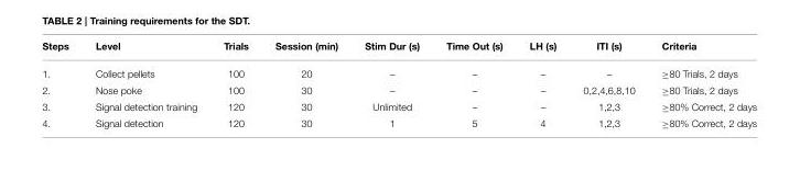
<table><thead><tr><td>Steps</td><td>Level</td><td>Trials</td><td>Session (min)</td><td>Stim Dur (s)</td><td>Time Out (s)</td><td>LH (s)</td><td>ITI (s)</td><td>Criteria</td></tr></thead><tbody><tr><td>1.</td><td>Collect pellets</td><td>100</td><td>20</td><td>–</td><td>–</td><td>–</td><td>–</td><td>≥80 Trials, 2 days</td></tr><tr><td>2.</td><td>Nose poke</td><td>100</td><td>30</td><td>–</td><td>–</td><td>–</td><td>0,2,4,6,8,10</td><td>≥80 Trials, 2 days</td></tr><tr><td>3.</td><td>Signal detection training</td><td>120</td><td>30</td><td>Unlimited</td><td>–</td><td>–</td><td>1,2,3</td><td>≥80% Correct, 2 days</td></tr><tr><td>4.</td><td>Signal detection</td><td>120</td><td>30</td><td>1</td><td>5</td><td>4</td><td>1,2,3</td><td>≥80% Correct, 2 days</td></tr></tbody></table>